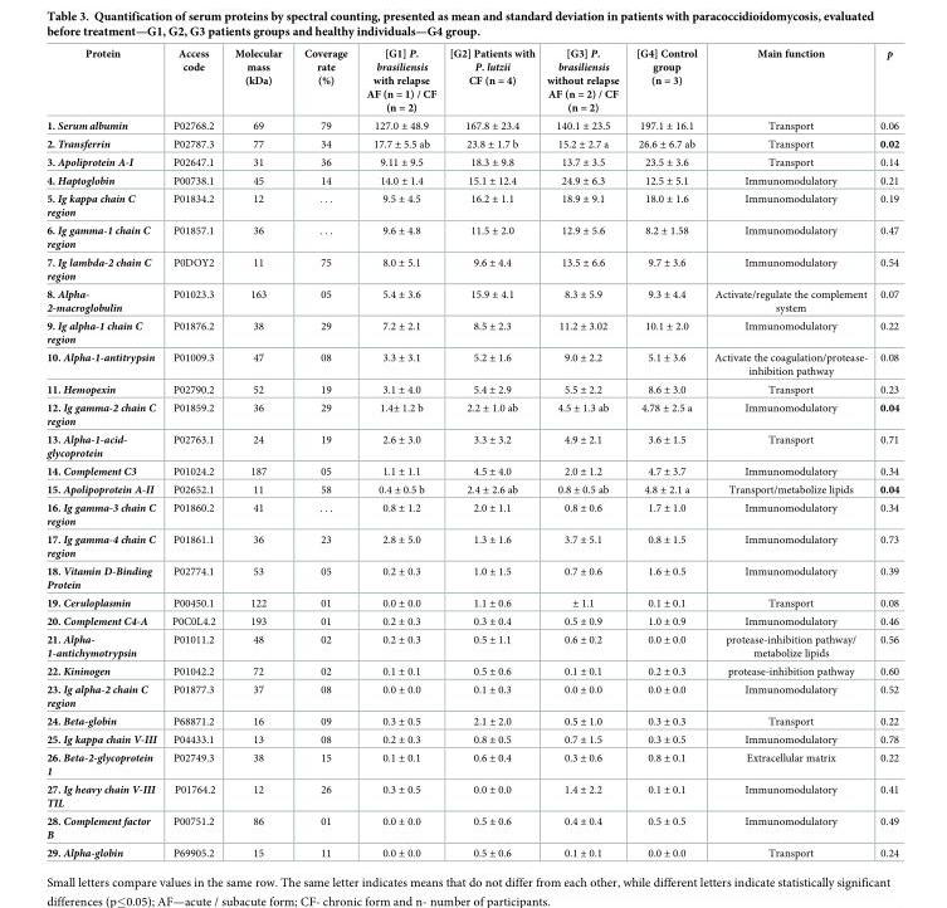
<table><thead><tr><td>Protein</td><td>Access code</td><td>Molecular mass (kDa)</td><td>Coverage rate (%)</td><td>[G1] P. brasiliensis with relapse AF (n = 1) / CF (n = 2)</td><td>[G2] Patients with P. lutzii CF (n = 4)</td><td>[G3] P. brasiliensis without relapse AF (n = 2) / CF (n = 2)</td><td>[G4] Control group (n = 3)</td><td>Main function</td><td>p</td></tr></thead><tbody><tr><td>1. Serum albumin</td><td>P02768.2</td><td>69</td><td>79</td><td>127.0 ± 48.9</td><td>167.8 ± 23.4</td><td>140.1 ± 23.5</td><td>197.1 ± 16.1</td><td>Transport</td><td>0.06</td></tr><tr><td>2. Transferrin</td><td>P02787.3</td><td>77</td><td>34</td><td>17.7 ± 5.5 ab</td><td>23.8 ± 1.7 b</td><td>15.2 ± 2.7 a</td><td>26.6 ± 6.7 ab</td><td>Transport</td><td>0.02</td></tr><tr><td>3. Apoliprotein A-I</td><td>P02647.1</td><td>31</td><td>36</td><td>9.11 ± 9.5</td><td>18.3 ± 9.8</td><td>13.7 ± 3.5</td><td>23.5 ± 3.6</td><td>Transport</td><td>0.14</td></tr><tr><td>4. Haptoglobin</td><td>P00738.1</td><td>45</td><td>14</td><td>14.0 ± 1.4</td><td>15.1 ± 12.4</td><td>24.9 ± 6.3</td><td>12.5 ± 5.1</td><td>Immunomodulatory</td><td>0.21</td></tr><tr><td>5. Ig kappa chain C region</td><td>P01834.2</td><td>12</td><td>. . .</td><td>9.5 ± 4.5</td><td>16.2 ± 1.1</td><td>18.9 ± 9.1</td><td>18.0 ± 1.6</td><td>Immunomodulatory</td><td>0.19</td></tr><tr><td>6. Ig gamma-1 chain C region</td><td>P01857.1</td><td>36</td><td>. . .</td><td>9.6 ± 4.8</td><td>11.5 ± 2.0</td><td>12.9 ± 5.6</td><td>8.2 ± 1.58</td><td>Immunomodulatory</td><td>0.47</td></tr><tr><td>7. Ig lambda-2 chain C region</td><td>P0DOY2</td><td>11</td><td>75</td><td>8.0 ± 5.1</td><td>9.6 ± 4.4</td><td>13.5 ± 6.6</td><td>9.7 ± 3.6</td><td>Immunomodulatory</td><td>0.54</td></tr><tr><td>8. Alpha- 2-macroglobulin</td><td>P01023.3</td><td>163</td><td>05</td><td>5.4 ± 3.6</td><td>15.9 ± 4.1</td><td>8.3 ± 5.9</td><td>9.3 ± 4.4</td><td>Activate/regulate the complement system</td><td>0.07</td></tr><tr><td>9. Ig alpha-1 chain C region</td><td>P01876.2</td><td>38</td><td>29</td><td>7.2 ± 2.1</td><td>8.5 ± 2.3</td><td>11.2 ± 3.02</td><td>10.1 ± 2.0</td><td>Immunomodulatory</td><td>0.22</td></tr><tr><td>10. Alpha-1-antitrypsin</td><td>P01009.3</td><td>47</td><td>08</td><td>3.3 ± 3.1</td><td>5.2 ± 1.6</td><td>9.0 ± 2.2</td><td>5.1 ± 3.6</td><td>Activate the coagulation/protease- inhibition pathway</td><td>0.08</td></tr><tr><td>11. Hemopexin</td><td>P02790.2</td><td>52</td><td>19</td><td>3.1 ± 4.0</td><td>5.4 ± 2.9</td><td>5.5 ± 2.2</td><td>8.6 ± 3.0</td><td>Transport</td><td>0.23</td></tr><tr><td>12. Ig gamma-2 chain C region</td><td>P01859.2</td><td>36</td><td>29</td><td>1.4± 1.2 b</td><td>2.2 ± 1.0 ab</td><td>4.5 ± 1.3 ab</td><td>4.78 ± 2.5 a</td><td>Immunomodulatory</td><td>0.04</td></tr><tr><td>13. Alpha-1-acid- glycoprotein</td><td>P02763.1</td><td>24</td><td>19</td><td>2.6 ± 3.0</td><td>3.3 ± 3.2</td><td>4.9 ± 2.1</td><td>3.6 ± 1.5</td><td>Transport</td><td>0.71</td></tr><tr><td>14. Complement C3</td><td>P01024.2</td><td>187</td><td>05</td><td>1.1 ± 1.1</td><td>4.5 ± 4.0</td><td>2.0 ± 1.2</td><td>4.7 ± 3.7</td><td>Immunomodulatory</td><td>0.34</td></tr><tr><td>15. Apolipoprotein A-II</td><td>P02652.1</td><td>11</td><td>58</td><td>0.4 ± 0.5 b</td><td>2.4 ± 2.6 ab</td><td>0.8 ± 0.5 ab</td><td>4.8 ± 2.1 a</td><td>Transport/metabolize lipids</td><td>0.04</td></tr><tr><td>16. Ig gamma-3 chain C region</td><td>P01860.2</td><td>41</td><td>. . .</td><td>0.8 ± 1.2</td><td>2.0 ± 1.1</td><td>0.8 ± 0.6</td><td>1.7 ± 1.0</td><td>Immunomodulatory</td><td>0.34</td></tr><tr><td>17. Ig gamma-4 chain C region</td><td>P01861.1</td><td>36</td><td>23</td><td>2.8 ± 5.0</td><td>1.3 ± 1.6</td><td>3.7 ± 5.1</td><td>0.8 ± 1.5</td><td>Immunomodulatory</td><td>0.73</td></tr><tr><td>18. Vitamin D-Binding Protein</td><td>P02774.1</td><td>53</td><td>05</td><td>0.2 ± 0.3</td><td>1.0 ± 1.5</td><td>0.7 ± 0.6</td><td>1.6 ± 0.5</td><td>Immunomodulatory</td><td>0.39</td></tr><tr><td>19. Ceruloplasmin</td><td>P00450.1</td><td>122</td><td>01</td><td>0.0 ± 0.0</td><td>1.1 ± 0.6</td><td>± 1.1</td><td>0.1 ± 0.1</td><td>Transport</td><td>0.08</td></tr><tr><td>20. Complement C4-A</td><td>P0C0L4.2</td><td>193</td><td>01</td><td>0.2 ± 0.3</td><td>0.3 ± 0.4</td><td>0.5 ± 0.9</td><td>1.0 ± 0.9</td><td>Immunomodulatory</td><td>0.46</td></tr><tr><td>21. Alpha- 1-antichymotrypsin</td><td>P01011.2</td><td>48</td><td>02</td><td>0.2 ± 0.3</td><td>0.5 ± 1.1</td><td>0.6 ± 0.2</td><td>0.0 ± 0.0</td><td>protease-inhibition pathway/ metabolize lipids</td><td>0.56</td></tr><tr><td>22. Kininogen</td><td>P01042.2</td><td>72</td><td>02</td><td>0.1 ± 0.1</td><td>0.5 ± 0.6</td><td>0.1 ± 0.1</td><td>0.2 ± 0.3</td><td>protease-inhibition pathway</td><td>0.60</td></tr><tr><td>23. Ig alpha-2 chain C region</td><td>P01877.3</td><td>37</td><td>08</td><td>0.0 ± 0.0</td><td>0.1 ± 0.3</td><td>0.0 ± 0.0</td><td>0.0 ± 0.0</td><td>Immunomodulatory</td><td>0.52</td></tr><tr><td>24. Beta-globin</td><td>P68871.2</td><td>16</td><td>09</td><td>0.3 ± 0.5</td><td>2.1 ± 2.0</td><td>0.5 ± 1.0</td><td>0.3 ± 0.3</td><td>Transport</td><td>0.22</td></tr><tr><td>25. Ig kappa chain V-III</td><td>P04433.1</td><td>13</td><td>08</td><td>0.2 ± 0.3</td><td>0.8 ± 0.5</td><td>0.7 ± 1.5</td><td>0.3 ± 0.5</td><td>Immunomodulatory</td><td>0.78</td></tr><tr><td>26. Beta-2-glycoprotein 1</td><td>P02749.3</td><td>38</td><td>15</td><td>0.1 ± 0.1</td><td>0.6 ± 0.4</td><td>0.3 ± 0.6</td><td>0.8 ± 0.1</td><td>Extracellular matrix</td><td>0.22</td></tr><tr><td>27. Ig heavy chain V-III TIL</td><td>P01764.2</td><td>12</td><td>26</td><td>0.3 ± 0.5</td><td>0.0 ± 0.0</td><td>1.4 ± 2.2</td><td>0.1 ± 0.1</td><td>Immunomodulatory</td><td>0.41</td></tr><tr><td>28. Complement factor B</td><td>P00751.2</td><td>86</td><td>01</td><td>0.0 ± 0.0</td><td>0.5 ± 0.6</td><td>0.4 ± 0.4</td><td>0.5 ± 0.5</td><td>Immunomodulatory</td><td>0.49</td></tr><tr><td>29. Alpha-globin</td><td>P69905.2</td><td>15</td><td>11</td><td>0.0 ± 0.0</td><td>0.5 ± 0.6</td><td>0.1 ± 0.1</td><td>0.0 ± 0.0</td><td>Transport</td><td>0.24</td></tr></tbody></table>